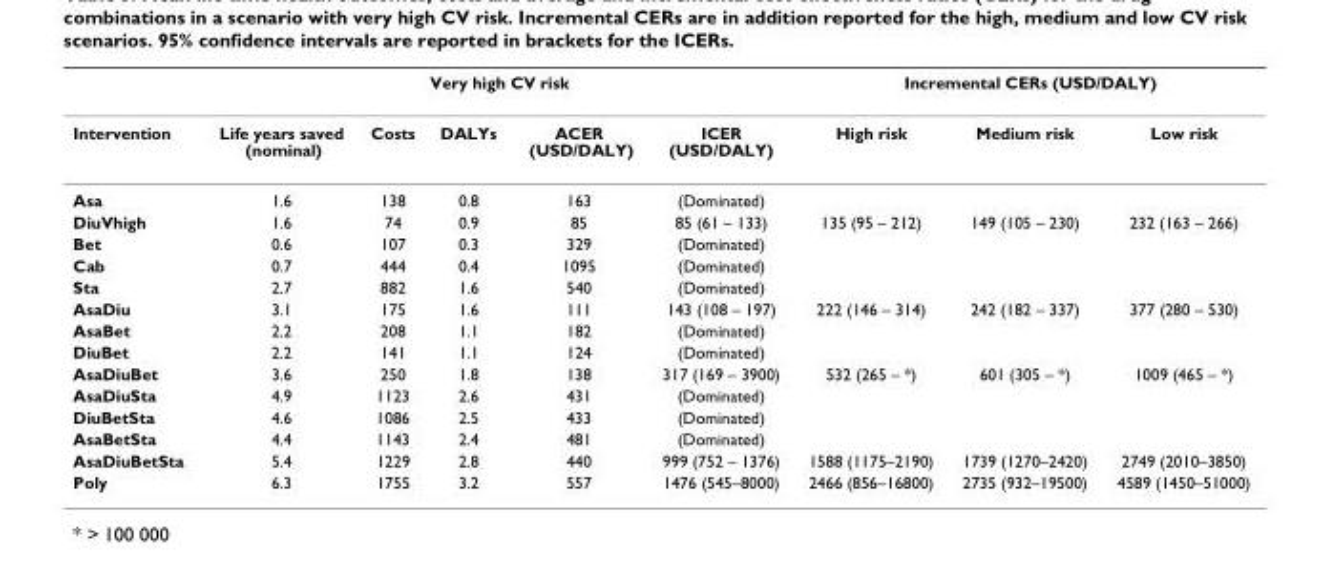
<table><thead><tr><td rowspan="2">Intervention</td><td colspan="5">Very high CV risk</td><td colspan="3">Incremental CERs (USD/DALY)</td></tr><tr><td>Life years saved (nominal)</td><td>Costs</td><td>DALYs</td><td>ACER (USD/DALY)</td><td>ICER (USD/DALY)</td><td>High risk</td><td>Medium risk</td><td>Low risk</td></tr></thead><tbody><tr><td>Asa</td><td>1.6</td><td>138</td><td>0.8</td><td>163</td><td>(Dominated)</td><td></td><td></td><td></td></tr><tr><td>DiuVhigh</td><td>1.6</td><td>74</td><td>0.9</td><td>85</td><td>85 (61 – 133)</td><td>135 (95 – 212)</td><td>149 (105 – 230)</td><td>232 (163 – 266)</td></tr><tr><td>Bet</td><td>0.6</td><td>107</td><td>0.3</td><td>329</td><td>(Dominated)</td><td></td><td></td><td></td></tr><tr><td>Cab</td><td>0.7</td><td>444</td><td>0.4</td><td>1095</td><td>(Dominated)</td><td></td><td></td><td></td></tr><tr><td>Sta</td><td>2.7</td><td>882</td><td>1.6</td><td>540</td><td>(Dominated)</td><td></td><td></td><td></td></tr><tr><td>AsaDiu</td><td>3.1</td><td>175</td><td>1.6</td><td>111</td><td>143 (108 – 197)</td><td>222 (146 – 314)</td><td>242 (182 – 337)</td><td>377 (280 – 530)</td></tr><tr><td>AsaBet</td><td>2.2</td><td>208</td><td>1.1</td><td>182</td><td>(Dominated)</td><td></td><td></td><td></td></tr><tr><td>DiuBet</td><td>2.2</td><td>141</td><td>1.1</td><td>124</td><td>(Dominated)</td><td></td><td></td><td></td></tr><tr><td>AsaDiuBet</td><td>3.6</td><td>250</td><td>1.8</td><td>138</td><td>317 (169 – 3900)</td><td>532 (265 – *)</td><td>601 (305 – *)</td><td>1009 (465 – *)</td></tr><tr><td>AsaDiuSta</td><td>4.9</td><td>1123</td><td>2.6</td><td>431</td><td>(Dominated)</td><td></td><td></td><td></td></tr><tr><td>DiuBetSta</td><td>4.6</td><td>1086</td><td>2.5</td><td>433</td><td>(Dominated)</td><td></td><td></td><td></td></tr><tr><td>AsaBetSta</td><td>4.4</td><td>1143</td><td>2.4</td><td>481</td><td>(Dominated)</td><td></td><td></td><td></td></tr><tr><td>AsaDiuBetSta</td><td>5.4</td><td>1229</td><td>2.8</td><td>440</td><td>999 (752 – 1376)</td><td>1588 (1175–2190)</td><td>1739 (1270–2420)</td><td>2749 (2010–3850)</td></tr><tr><td>Poly</td><td>6.3</td><td>1755</td><td>3.2</td><td>557</td><td>1476 (545–8000)</td><td>2466 (856–16800)</td><td>2735 (932–19500)</td><td>4589 (1450–51000)</td></tr></tbody></table>